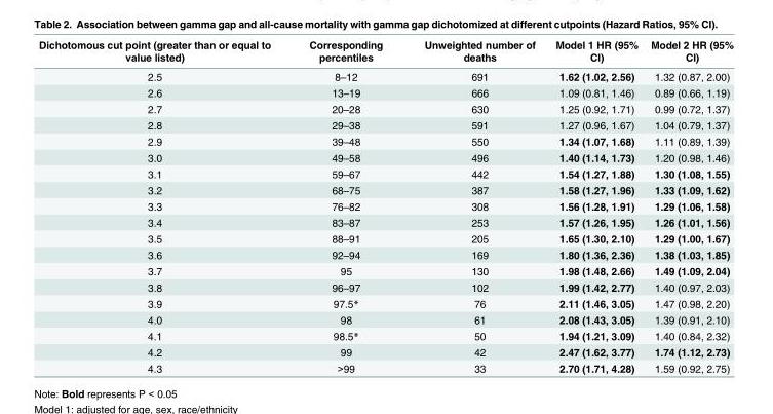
<table><thead><tr><td>Dichotomous cut point (greater than or equal to value listed)</td><td>Corresponding percentiles</td><td>Unweighted number of deaths</td><td>Model 1 HR (95% CI)</td><td>Model 2 HR (95% CI)</td></tr></thead><tbody><tr><td>2.5</td><td>8–12</td><td>691</td><td>1.62 (1.02, 2.56)</td><td>1.32 (0.87, 2.00)</td></tr><tr><td>2.6</td><td>13–19</td><td>666</td><td>1.09 (0.81, 1.46)</td><td>0.89 (0.66, 1.19)</td></tr><tr><td>2.7</td><td>20–28</td><td>630</td><td>1.25 (0.92, 1.71)</td><td>0.99 (0.72, 1.37)</td></tr><tr><td>2.8</td><td>29–38</td><td>591</td><td>1.27 (0.96, 1.67)</td><td>1.04 (0.79, 1.37)</td></tr><tr><td>2.9</td><td>39–48</td><td>550</td><td>1.34 (1.07, 1.68)</td><td>1.11 (0.89, 1.39)</td></tr><tr><td>3.0</td><td>49–58</td><td>496</td><td>1.40 (1.14, 1.73)</td><td>1.20 (0.98, 1.46)</td></tr><tr><td>3.1</td><td>59–67</td><td>442</td><td>1.54 (1.27, 1.88)</td><td>1.30 (1.08, 1.55)</td></tr><tr><td>3.2</td><td>68–75</td><td>387</td><td>1.58 (1.27, 1.96)</td><td>1.33 (1.09, 1.62)</td></tr><tr><td>3.3</td><td>76–82</td><td>308</td><td>1.56 (1.28, 1.91)</td><td>1.29 (1.06, 1.58)</td></tr><tr><td>3.4</td><td>83–87</td><td>253</td><td>1.57 (1.26, 1.95)</td><td>1.26 (1.01, 1.56)</td></tr><tr><td>3.5</td><td>88–91</td><td>205</td><td>1.65 (1.30, 2.10)</td><td>1.29 (1.00, 1.67)</td></tr><tr><td>3.6</td><td>92–94</td><td>169</td><td>1.80 (1.36, 2.36)</td><td>1.38 (1.03, 1.85)</td></tr><tr><td>3.7</td><td>95</td><td>130</td><td>1.98 (1.48, 2.66)</td><td>1.49 (1.09, 2.04)</td></tr><tr><td>3.8</td><td>96–97</td><td>102</td><td>1.99 (1.42, 2.77)</td><td>1.40 (0.97, 2.03)</td></tr><tr><td>3.9</td><td>97.5*</td><td>76</td><td>2.11 (1.46, 3.05)</td><td>1.47 (0.98, 2.20)</td></tr><tr><td>4.0</td><td>98</td><td>61</td><td>2.08 (1.43, 3.05)</td><td>1.39 (0.91, 2.10)</td></tr><tr><td>4.1</td><td>98.5*</td><td>50</td><td>1.94 (1.21, 3.09)</td><td>1.40 (0.84, 2.32)</td></tr><tr><td>4.2</td><td>99</td><td>42</td><td>2.47 (1.62, 3.77)</td><td>1.74 (1.12, 2.73)</td></tr><tr><td>4.3</td><td>&gt;99</td><td>33</td><td>2.70 (1.71, 4.28)</td><td>1.59 (0.92, 2.75)</td></tr></tbody></table>